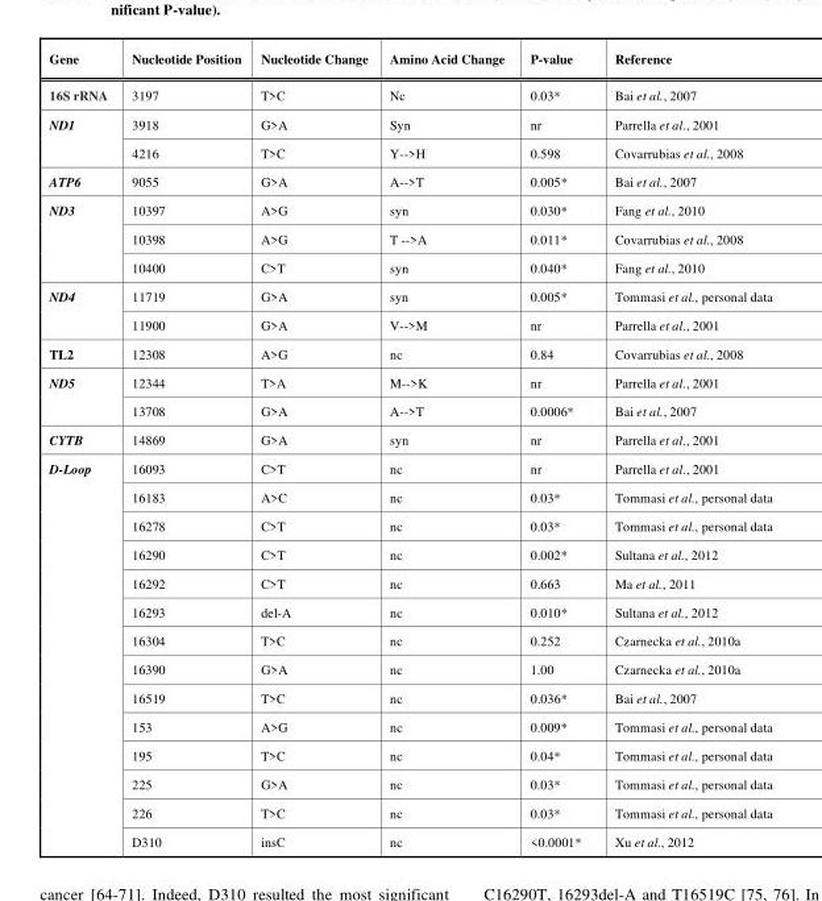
<table><thead><tr><td>Gene</td><td>Nucleotide Position</td><td>Nucleotide Change</td><td>Amino Acid Change</td><td>P-value</td><td>Reference</td></tr></thead><tbody><tr><td>16S rRNA</td><td>3197</td><td>T&gt;C</td><td>Nc</td><td>0.03*</td><td>Bai et al., 2007</td></tr><tr><td rowspan="2">ND1</td><td>3918</td><td>G&gt;A</td><td>Syn</td><td>nr</td><td>Parrella et al., 2001</td></tr><tr><td>4216</td><td>T&gt;C</td><td>Y--&gt;H</td><td>0.598</td><td>Covarrubias et al., 2008</td></tr><tr><td>ATP6</td><td>9055</td><td>G&gt;A</td><td>A--&gt;T</td><td>0.005*</td><td>Bai et al., 2007</td></tr><tr><td rowspan="3">ND3</td><td>10397</td><td>A&gt;G</td><td>syn</td><td>0.030*</td><td>Fang et al., 2010</td></tr><tr><td>10398</td><td>A&gt;G</td><td>T --&gt;A</td><td>0.011*</td><td>Covarrubias et al., 2008</td></tr><tr><td>10400</td><td>C&gt;T</td><td>syn</td><td>0.040*</td><td>Fang et al., 2010</td></tr><tr><td rowspan="2">ND4</td><td>11719</td><td>G&gt;A</td><td>syn</td><td>0.005*</td><td>Tommasi et al., personal data</td></tr><tr><td>11900</td><td>G&gt;A</td><td>V--&gt;M</td><td>nr</td><td>Parrella et al., 2001</td></tr><tr><td>TL2</td><td>12308</td><td>A&gt;G</td><td>nc</td><td>0.84</td><td>Covarrubias et al., 2008</td></tr><tr><td rowspan="2">ND5</td><td>12344</td><td>T&gt;A</td><td>M--&gt;K</td><td>nr</td><td>Parrella et al., 2001</td></tr><tr><td>13708</td><td>G&gt;A</td><td>A--&gt;T</td><td>0.0006*</td><td>Bai et al., 2007</td></tr><tr><td>CYTB</td><td>14869</td><td>G&gt;A</td><td>syn</td><td>nr</td><td>Parrella et al., 2001</td></tr><tr><td rowspan="14">D-Loop</td><td>16093</td><td>C&gt;T</td><td>nc</td><td>nr</td><td>Parrella et al., 2001</td></tr><tr><td>16183</td><td>A&gt;C</td><td>nc</td><td>0.03*</td><td>Tommasi et al., personal data</td></tr><tr><td>16278</td><td>C&gt;T</td><td>nc</td><td>0.03*</td><td>Tommasi et al., personal data</td></tr><tr><td>16290</td><td>C&gt;T</td><td>nc</td><td>0.002*</td><td>Sultana et al., 2012</td></tr><tr><td>16292</td><td>C&gt;T</td><td>nc</td><td>0.663</td><td>Ma et al., 2011</td></tr><tr><td>16293</td><td>del-A</td><td>nc</td><td>0.010*</td><td>Sultana et al., 2012</td></tr><tr><td>16304</td><td>T&gt;C</td><td>nc</td><td>0.252</td><td>Czarnecka et al., 2010a</td></tr><tr><td>16390</td><td>G&gt;A</td><td>nc</td><td>1.00</td><td>Czarnecka et al., 2010a</td></tr><tr><td>16519</td><td>T&gt;C</td><td>nc</td><td>0.036*</td><td>Bai et al., 2007</td></tr><tr><td>153</td><td>A&gt;G</td><td>nc</td><td>0.009*</td><td>Tommasi et al., personal data</td></tr><tr><td>195</td><td>T&gt;C</td><td>nc</td><td>0.04*</td><td>Tommasi et al., personal data</td></tr><tr><td>225</td><td>G&gt;A</td><td>nc</td><td>0.03*</td><td>Tommasi et al., personal data</td></tr><tr><td>226</td><td>T&gt;C</td><td>nc</td><td>0.03*</td><td>Tommasi et al., personal data</td></tr><tr><td>D310</td><td>insC</td><td>nc</td><td>&lt;0.0001*</td><td>Xu et al., 2012</td></tr></tbody></table>